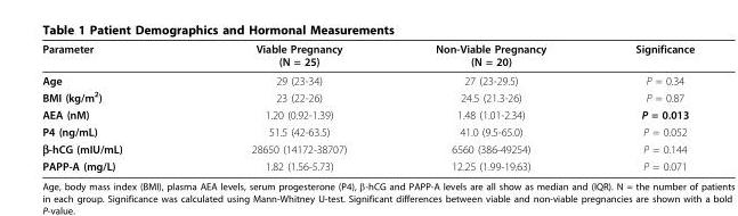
<table><thead><tr><td>Parameter</td><td>Viable Pregnancy (N = 25)</td><td>Non-Viable Pregnancy (N = 20)</td><td>Significance</td></tr></thead><tbody><tr><td>Age</td><td>29 (23-34)</td><td>27 (23-29.5)</td><td>P = 0.34</td></tr><tr><td>BMI (kg/m<sup>2</sup>)</td><td>23 (22-26)</td><td>24.5 (21.3-26)</td><td>P = 0.87</td></tr><tr><td>AEA (nM)</td><td>1.20 (0.92-1.39)</td><td>1.48 (1.01-2.34)</td><td>P = 0.013</td></tr><tr><td>P4 (ng/mL)</td><td>51.5 (42-63.5)</td><td>41.0 (9.5-65.0)</td><td>P = 0.052</td></tr><tr><td>β-hCG (mIU/mL)</td><td>28650 (14172-38707)</td><td>6560 (386-49254)</td><td>P = 0.144</td></tr><tr><td>PAPP-A (mg/L)</td><td>1.82 (1.56-5.73)</td><td>12.25 (1.99-19.63)</td><td>P = 0.071</td></tr></tbody></table>